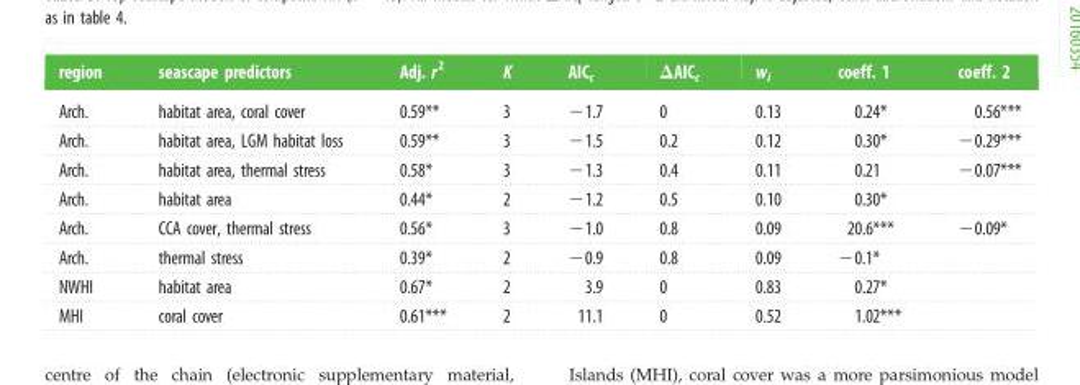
<table><thead><tr><td>region</td><td>seascape predictors</td><td>Adj. r<sup>2</sup></td><td>K</td><td>AIC<sub>c</sub></td><td>ΔAIC<sub>c</sub></td><td>w<sub>i</sub></td><td>coeff. 1</td><td>coeff. 2</td></tr></thead><tbody><tr><td>Arch.</td><td>habitat area, coral cover</td><td>0.59**</td><td>3</td><td>−1.7</td><td>0</td><td>0.13</td><td>0.24*</td><td>0.56***</td></tr><tr><td>Arch.</td><td>habitat area, LGM habitat loss</td><td>0.59**</td><td>3</td><td>−1.5</td><td>0.2</td><td>0.12</td><td>0.30*</td><td>−0.29***</td></tr><tr><td>Arch.</td><td>habitat area, thermal stress</td><td>0.58*</td><td>3</td><td>−1.3</td><td>0.4</td><td>0.11</td><td>0.21</td><td>−0.07***</td></tr><tr><td>Arch.</td><td>habitat area</td><td>0.44*</td><td>2</td><td>−1.2</td><td>0.5</td><td>0.10</td><td>0.30*</td><td></td></tr><tr><td>Arch.</td><td>CCA cover, thermal stress</td><td>0.56*</td><td>3</td><td>−1.0</td><td>0.8</td><td>0.09</td><td>20.6***</td><td>−0.09*</td></tr><tr><td>Arch.</td><td>thermal stress</td><td>0.39*</td><td>2</td><td>−0.9</td><td>0.8</td><td>0.09</td><td>−0.1*</td><td></td></tr><tr><td>NWHI</td><td>habitat area</td><td>0.67*</td><td>2</td><td>3.9</td><td>0</td><td>0.83</td><td>0.27*</td><td></td></tr><tr><td>MHI</td><td>coral cover</td><td>0.61***</td><td>2</td><td>11.1</td><td>0</td><td>0.52</td><td>1.02***</td><td></td></tr></tbody></table>